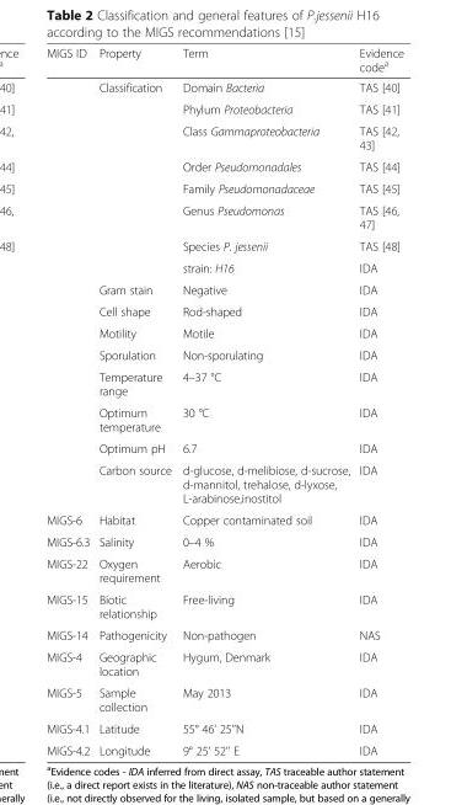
<table><thead><tr><td>MIGS ID</td><td>Property</td><td>Term</td><td>Evidence code<sup>a</sup></td></tr></thead><tbody><tr><td rowspan="16"></td><td rowspan="8">Classification</td><td>Domain Bacteria</td><td>TAS [40]</td></tr><tr><td>Phylum Proteobacteria</td><td>TAS [41]</td></tr><tr><td>Class Gammaproteobacteria</td><td>TAS [42, 43]</td></tr><tr><td>Order Pseudomonadales</td><td>TAS [44]</td></tr><tr><td>Family Pseudomonadaceae</td><td>TAS [45]</td></tr><tr><td>Genus Pseudomonas</td><td>TAS [46, 47]</td></tr><tr><td>Species P. jessenii</td><td>TAS [48]</td></tr><tr><td>strain: H16</td><td>IDA</td></tr><tr><td>Gram stain</td><td>Negative</td><td>IDA</td></tr><tr><td>Cell shape</td><td>Rod-shaped</td><td>IDA</td></tr><tr><td>Motility</td><td>Motile</td><td>IDA</td></tr><tr><td>Sporulation</td><td>Non-sporulating</td><td>IDA</td></tr><tr><td>Temperature range</td><td>4–37 °C</td><td>IDA</td></tr><tr><td>Optimum temperature</td><td>30 °C</td><td>IDA</td></tr><tr><td>Optimum pH</td><td>6.7</td><td>IDA</td></tr><tr><td>Carbon source</td><td>d-glucose, d-melibiose, d-sucrose, d-mannitol, trehalose, d-lyxose, L-arabinose,inostitol</td><td>IDA</td></tr><tr><td>MIGS-6</td><td>Habitat</td><td>Copper contaminated soil</td><td>IDA</td></tr><tr><td>MIGS-6.3</td><td>Salinity</td><td>0–4 %</td><td>IDA</td></tr><tr><td>MIGS-22</td><td>Oxygen requirement</td><td>Aerobic</td><td>IDA</td></tr><tr><td>MIGS-15</td><td>Biotic relationship</td><td>Free-living</td><td>IDA</td></tr><tr><td>MIGS-14</td><td>Pathogenicity</td><td>Non-pathogen</td><td>NAS</td></tr><tr><td>MIGS-4</td><td>Geographic location</td><td>Hygum, Denmark</td><td>IDA</td></tr><tr><td>MIGS-5</td><td>Sample collection</td><td>May 2013</td><td>IDA</td></tr><tr><td>MIGS-4.1</td><td>Latitude</td><td>55° 46’ 25’’N</td><td>IDA</td></tr><tr><td>MIGS-4.2</td><td>Longitude</td><td>9° 25’ 52’’ E</td><td>IDA</td></tr></tbody></table>